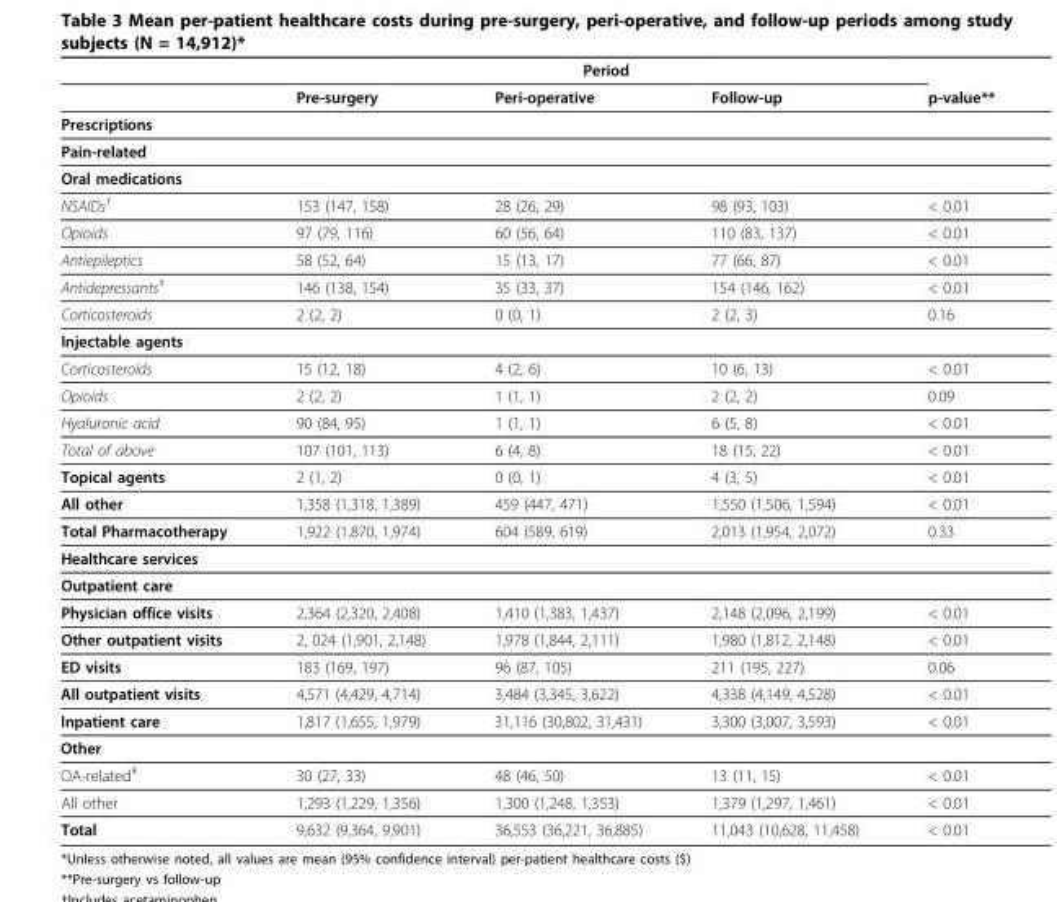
<table><thead><tr><td rowspan="2"></td><td colspan="3">Period</td><td rowspan="2">p-value**</td></tr><tr><td>Pre-surgery</td><td>Peri-operative</td><td>Follow-up</td></tr></thead><tbody><tr><td colspan="5">Prescriptions</td></tr><tr><td colspan="5">Pain-related</td></tr><tr><td colspan="5">Oral medications</td></tr><tr><td>NSAIDs<sup>†</sup></td><td>153 (147, 158)</td><td>28 (26, 29)</td><td>98 (93, 103)</td><td>&lt; 0.01</td></tr><tr><td>Opioids</td><td>97 (79, 116)</td><td>60 (56, 64)</td><td>110 (83, 137)</td><td>&lt; 0.01</td></tr><tr><td>Antiepileptics</td><td>58 (52, 64)</td><td>15 (13, 17)</td><td>77 (66, 87)</td><td>&lt; 0.01</td></tr><tr><td>Antidepressants<sup>‡</sup></td><td>146 (138, 154)</td><td>35 (33, 37)</td><td>154 (146, 162)</td><td>&lt; 0.01</td></tr><tr><td>Corticosteroids</td><td>2 (2, 2)</td><td>0 (0, 1)</td><td>2 (2, 3)</td><td>0.16</td></tr><tr><td colspan="5">Injectable agents</td></tr><tr><td>Corticosteroids</td><td>15 (12, 18)</td><td>4 (2, 6)</td><td>10 (6, 13)</td><td>&lt; 0.01</td></tr><tr><td>Opioids</td><td>2 (2, 2)</td><td>1 (1, 1)</td><td>2 (2, 2)</td><td>0.09</td></tr><tr><td>Hyaluronic acid</td><td>90 (84, 95)</td><td>1 (1, 1)</td><td>6 (5, 8)</td><td>&lt; 0.01</td></tr><tr><td>Total of above</td><td>107 (101, 113)</td><td>6 (4, 8)</td><td>18 (15, 22)</td><td>&lt; 0.01</td></tr><tr><td>Topical agents</td><td>2 (1, 2)</td><td>0 (0, 1)</td><td>4 (3, 5)</td><td>&lt; 0.01</td></tr><tr><td>All other</td><td>1,358 (1,318, 1,389)</td><td>459 (447, 471)</td><td>1,550 (1,506, 1,594)</td><td>&lt; 0.01</td></tr><tr><td>Total Pharmacotherapy</td><td>1,922 (1,870, 1,974)</td><td>604 (589, 619)</td><td>2,013 (1,954, 2,072)</td><td>0.33</td></tr><tr><td colspan="5">Healthcare services</td></tr><tr><td colspan="5">Outpatient care</td></tr><tr><td>Physician office visits</td><td>2,364 (2,320, 2,408)</td><td>1,410 (1,383, 1,437)</td><td>2,148 (2,096, 2,199)</td><td>&lt; 0.01</td></tr><tr><td>Other outpatient visits</td><td>2, 024 (1,901, 2,148)</td><td>1,978 (1,844, 2,111)</td><td>1,980 (1,812, 2,148)</td><td>&lt; 0.01</td></tr><tr><td>ED visits</td><td>183 (169, 197)</td><td>96 (87, 105)</td><td>211 (195, 227)</td><td>0.06</td></tr><tr><td>All outpatient visits</td><td>4,571 (4,429, 4,714)</td><td>3,484 (3,345, 3,622)</td><td>4,338 (4,149, 4,528)</td><td>&lt; 0.01</td></tr><tr><td>Inpatient care</td><td>1,817 (1,655, 1,979)</td><td>31,116 (30,802, 31,431)</td><td>3,300 (3,007, 3,593)</td><td>&lt; 0.01</td></tr><tr><td colspan="5">Other</td></tr><tr><td>OA-related<sup>¥</sup></td><td>30 (27, 33)</td><td>48 (46, 50)</td><td>13 (11, 15)</td><td>&lt; 0.01</td></tr><tr><td>All other</td><td>1,293 (1,229, 1,356)</td><td>1,300 (1,248, 1,353)</td><td>1,379 (1,297, 1,461)</td><td>&lt; 0.01</td></tr><tr><td>Total</td><td>9,632 (9,364, 9,901)</td><td>36,553 (36,221, 36,885)</td><td>11,043 (10,628, 11,458)</td><td>&lt; 0.01</td></tr></tbody></table>